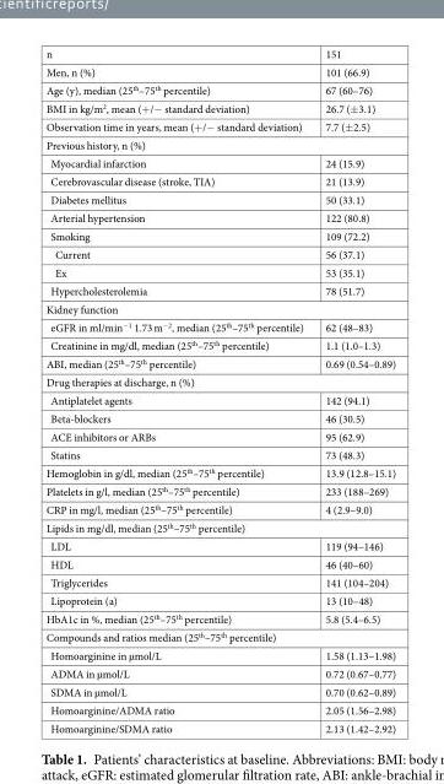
<table><tbody><tr><td>n</td><td>151</td></tr><tr><td>Men, n (%)</td><td>101 (66.9)</td></tr><tr><td>Age (y), median (25<sup>th</sup>–75<sup>th</sup> percentile)</td><td>67 (60–76)</td></tr><tr><td>BMI in kg/m<sup>2</sup>, mean (+/− standard deviation)</td><td>26.7 (±3.1)</td></tr><tr><td>Observation time in years, mean (+/− standard deviation)</td><td>7.7 (±2.5)</td></tr><tr><td colspan="2">Previous history, n (%)</td></tr><tr><td>Myocardial infarction</td><td>24 (15.9)</td></tr><tr><td>Cerebrovascular disease (stroke, TIA)</td><td>21 (13.9)</td></tr><tr><td>Diabetes mellitus</td><td>50 (33.1)</td></tr><tr><td>Arterial hypertension</td><td>122 (80.8)</td></tr><tr><td>Smoking</td><td>109 (72.2)</td></tr><tr><td>Current</td><td>56 (37.1)</td></tr><tr><td>Ex</td><td>53 (35.1)</td></tr><tr><td>Hypercholesterolemia</td><td>78 (51.7)</td></tr><tr><td colspan="2">Kidney function</td></tr><tr><td>eGFR in ml/min<sup>−1</sup> 1.73 m<sup>−2</sup>, median (25<sup>th</sup>–75<sup>th</sup> percentile)</td><td>62 (48–83)</td></tr><tr><td>Creatinine in mg/dl, median (25<sup>th</sup>–75<sup>th</sup> percentile)</td><td>1.1 (1.0–1.3)</td></tr><tr><td>ABI, median (25<sup>th</sup>–75<sup>th</sup> percentile)</td><td>0.69 (0.54–0.89)</td></tr><tr><td colspan="2">Drug therapies at discharge, n (%)</td></tr><tr><td>Antiplatelet agents</td><td>142 (94.1)</td></tr><tr><td>Beta-blockers</td><td>46 (30.5)</td></tr><tr><td>ACE inhibitors or ARBs</td><td>95 (62.9)</td></tr><tr><td>Statins</td><td>73 (48.3)</td></tr><tr><td>Hemoglobin in g/dl, median (25<sup>th</sup>–75<sup>th</sup> percentile)</td><td>13.9 (12.8–15.1)</td></tr><tr><td>Platelets in g/l, median (25<sup>th</sup>–75<sup>th</sup> percentile)</td><td>233 (188–269)</td></tr><tr><td>CRP in mg/l, median (25<sup>th</sup>–75<sup>th</sup> percentile)</td><td>4 (2.9–9.0)</td></tr><tr><td colspan="2">Lipids in mg/dl, median (25<sup>th</sup>–75<sup>th</sup> percentile)</td></tr><tr><td>LDL</td><td>119 (94–146)</td></tr><tr><td>HDL</td><td>46 (40–60)</td></tr><tr><td>Triglycerides</td><td>141 (104–204)</td></tr><tr><td>Lipoprotein (a)</td><td>13 (10–48)</td></tr><tr><td>HbA1c in %, median (25<sup>th</sup>–75<sup>th</sup> percentile)</td><td>5.8 (5.4–6.5)</td></tr><tr><td colspan="2">Compounds and ratios median (25<sup>th</sup>–75<sup>th</sup> percentile)</td></tr><tr><td>Homoarginine in µmol/L</td><td>1.58 (1.13–1.98)</td></tr><tr><td>ADMA in µmol/L</td><td>0.72 (0.67–0.77)</td></tr><tr><td>SDMA in µmol/L</td><td>0.70 (0.62–0.89)</td></tr><tr><td>Homoarginine/ADMA ratio</td><td>2.05 (1.56–2.98)</td></tr><tr><td>Homoarginine/SDMA ratio</td><td>2.13 (1.42–2.92)</td></tr></tbody></table>